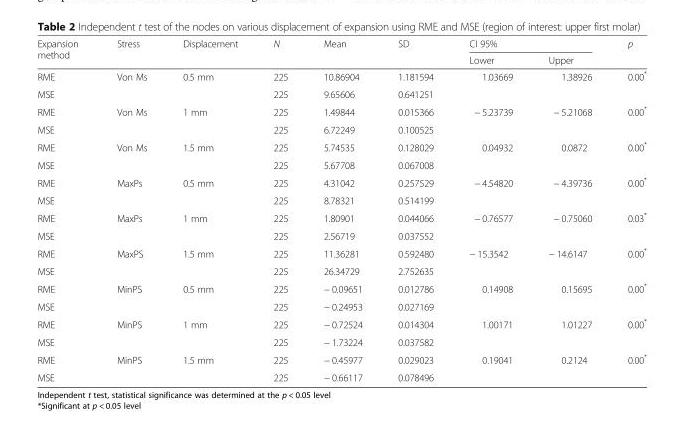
<table><thead><tr><td rowspan="2">Expansion method</td><td rowspan="2">Stress</td><td rowspan="2">Displacement</td><td rowspan="2">N</td><td rowspan="2">Mean</td><td rowspan="2">SD</td><td colspan="2">CI 95%</td><td rowspan="2">p</td></tr><tr><td>Lower</td><td>Upper</td></tr></thead><tbody><tr><td>RME</td><td rowspan="2">Von Ms</td><td>0.5 mm</td><td>225</td><td>10.86904</td><td>1.181594</td><td rowspan="2">1.03669</td><td rowspan="2">1.38926</td><td>0.00*</td></tr><tr><td>MSE</td><td></td><td>225</td><td>9.65606</td><td>0.641251</td><td></td></tr><tr><td>RME</td><td rowspan="2">Von Ms</td><td>1 mm</td><td>225</td><td>1.49844</td><td>0.015366</td><td rowspan="2">− 5.23739</td><td rowspan="2">− 5.21068</td><td>0.00*</td></tr><tr><td>MSE</td><td></td><td>225</td><td>6.72249</td><td>0.100525</td><td></td></tr><tr><td>RME</td><td rowspan="2">Von Ms</td><td>1.5 mm</td><td>225</td><td>5.74535</td><td>0.128029</td><td rowspan="2">0.04932</td><td rowspan="2">0.0872</td><td>0.00*</td></tr><tr><td>MSE</td><td></td><td>225</td><td>5.67708</td><td>0.067008</td><td></td></tr><tr><td>RME</td><td rowspan="2">MaxPs</td><td>0.5 mm</td><td>225</td><td>4.31042</td><td>0.257529</td><td rowspan="2">− 4.54820</td><td rowspan="2">− 4.39736</td><td>0.00*</td></tr><tr><td>MSE</td><td></td><td>225</td><td>8.78321</td><td>0.514199</td><td></td></tr><tr><td>RME</td><td rowspan="2">MaxPs</td><td>1 mm</td><td>225</td><td>1.80901</td><td>0.044066</td><td rowspan="2">− 0.76577</td><td rowspan="2">− 0.75060</td><td>0.03*</td></tr><tr><td>MSE</td><td></td><td>225</td><td>2.56719</td><td>0.037552</td><td></td></tr><tr><td>RME</td><td rowspan="2">MaxPS</td><td>1.5 mm</td><td>225</td><td>11.36281</td><td>0.592480</td><td rowspan="2">− 15.3542</td><td rowspan="2">− 14.6147</td><td>0.00*</td></tr><tr><td>MSE</td><td></td><td>225</td><td>26.34729</td><td>2.752635</td><td></td></tr><tr><td>RME</td><td rowspan="2">MinPS</td><td>0.5 mm</td><td>225</td><td>− 0.09651</td><td>0.012786</td><td rowspan="2">0.14908</td><td rowspan="2">0.15695</td><td>0.00*</td></tr><tr><td>MSE</td><td></td><td>225</td><td>− 0.24953</td><td>0.027169</td><td></td></tr><tr><td>RME</td><td rowspan="2">MinPS</td><td>1 mm</td><td>225</td><td>− 0.72524</td><td>0.014304</td><td rowspan="2">1.00171</td><td rowspan="2">1.01227</td><td>0.00*</td></tr><tr><td>MSE</td><td></td><td>225</td><td>− 1.73224</td><td>0.037582</td><td></td></tr><tr><td>RME</td><td rowspan="2">MinPS</td><td>1.5 mm</td><td>225</td><td>− 0.45977</td><td>0.029023</td><td rowspan="2">0.19041</td><td rowspan="2">0.2124</td><td>0.00*</td></tr><tr><td>MSE</td><td></td><td>225</td><td>− 0.66117</td><td>0.078496</td><td></td></tr></tbody></table>